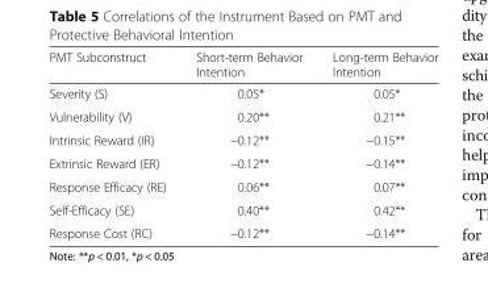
<table><thead><tr><td>PMT Subconstruct</td><td>Short-term Behavior Intention</td><td>Long-term Behavior Intention</td></tr></thead><tbody><tr><td>Severity (S)</td><td>0.05*</td><td>0.05*</td></tr><tr><td>Vulnerability (V)</td><td>0.20**</td><td>0.21**</td></tr><tr><td>Intrinsic Reward (IR)</td><td>−0.12**</td><td>−0.15**</td></tr><tr><td>Extrinsic Reward (ER)</td><td>−0.12**</td><td>−0.14**</td></tr><tr><td>Response Efficacy (RE)</td><td>0.06**</td><td>0.07**</td></tr><tr><td>Self-Efficacy (SE)</td><td>0.40**</td><td>0.42**</td></tr><tr><td>Response Cost (RC)</td><td>−0.12**</td><td>−0.14**</td></tr></tbody></table>